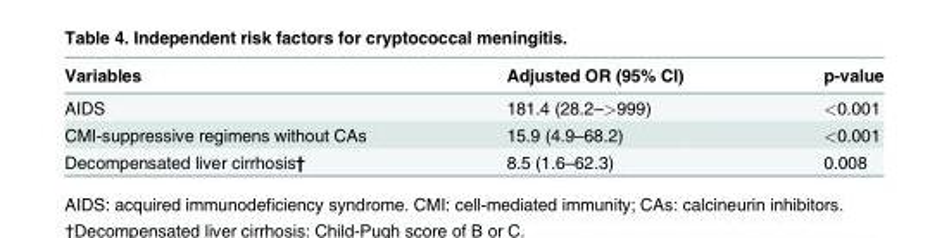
<table><thead><tr><td>Variables</td><td>Adjusted OR (95% CI)</td><td>p-value</td></tr></thead><tbody><tr><td>AIDS</td><td>181.4 (28.2–&gt;999)</td><td>&lt;0.001</td></tr><tr><td>CMI-suppressive regimens without CAs</td><td>15.9 (4.9–68.2)</td><td>&lt;0.001</td></tr><tr><td>Decompensated liver cirrhosis†</td><td>8.5 (1.6–62.3)</td><td>0.008</td></tr></tbody></table>